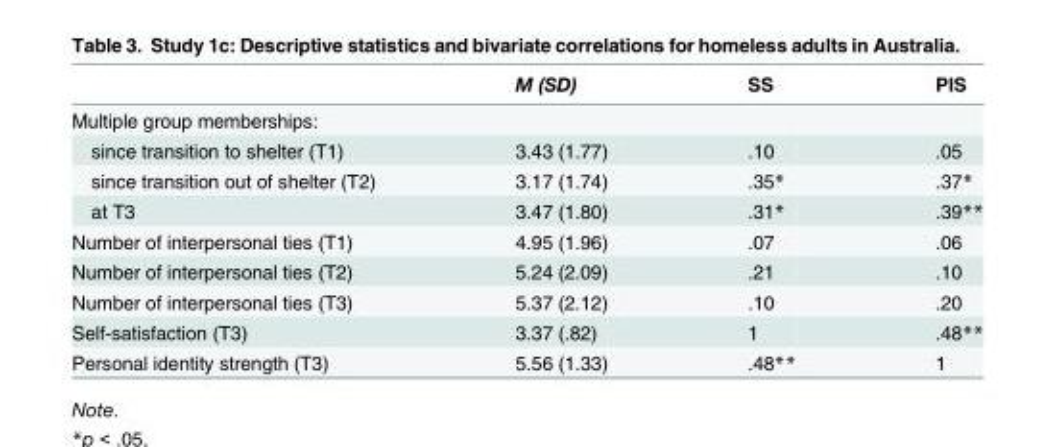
<table><thead><tr><td></td><td>M (SD)</td><td>SS</td><td>PIS</td></tr></thead><tbody><tr><td colspan="4">Multiple group memberships:</td></tr><tr><td>since transition to shelter (T1)</td><td>3.43 (1.77)</td><td>.10</td><td>.05</td></tr><tr><td>since transition out of shelter (T2)</td><td>3.17 (1.74)</td><td>.35*</td><td>.37*</td></tr><tr><td>at T3</td><td>3.47 (1.80)</td><td>.31*</td><td>.39**</td></tr><tr><td>Number of interpersonal ties (T1)</td><td>4.95 (1.96)</td><td>.07</td><td>.06</td></tr><tr><td>Number of interpersonal ties (T2)</td><td>5.24 (2.09)</td><td>.21</td><td>.10</td></tr><tr><td>Number of interpersonal ties (T3)</td><td>5.37 (2.12)</td><td>.10</td><td>.20</td></tr><tr><td>Self-satisfaction (T3)</td><td>3.37 (.82)</td><td>1</td><td>.48**</td></tr><tr><td>Personal identity strength (T3)</td><td>5.56 (1.33)</td><td>.48**</td><td>1</td></tr></tbody></table>